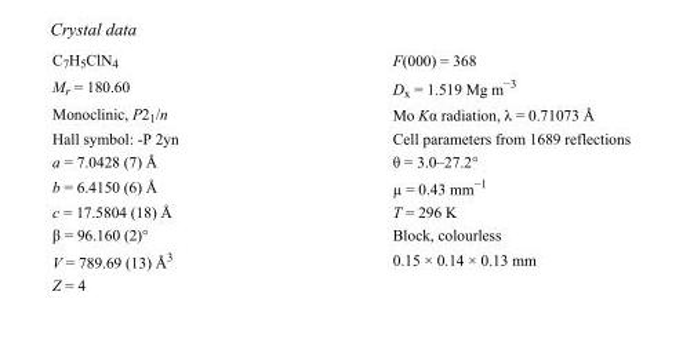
<table><tbody><tr><td>C<sub>7</sub>H<sub>5</sub>ClN<sub>4</sub></td><td>F(000) = 368</td></tr><tr><td>M<sub>r</sub> = 180.60</td><td>D<sub>x</sub> = 1.519 Mg m<sup>−3</sup></td></tr><tr><td>Monoclinic, P2<sub>1</sub>/n</td><td>Mo Kα radiation, λ = 0.71073 Å</td></tr><tr><td>Hall symbol: -P 2yn</td><td>Cell parameters from 1689 reflections</td></tr><tr><td>a = 7.0428 (7) Å</td><td>θ = 3.0–27.2°</td></tr><tr><td>b = 6.4150 (6) Å</td><td>µ = 0.43 mm<sup>−1</sup></td></tr><tr><td>c = 17.5804 (18) Å</td><td>T = 296 K</td></tr><tr><td>β = 96.160 (2)°</td><td>Block, colourless</td></tr><tr><td>V = 789.69 (13) Å<sup>3</sup></td><td>0.15 × 0.14 × 0.13 mm</td></tr><tr><td>Z = 4</td><td></td></tr></tbody></table>